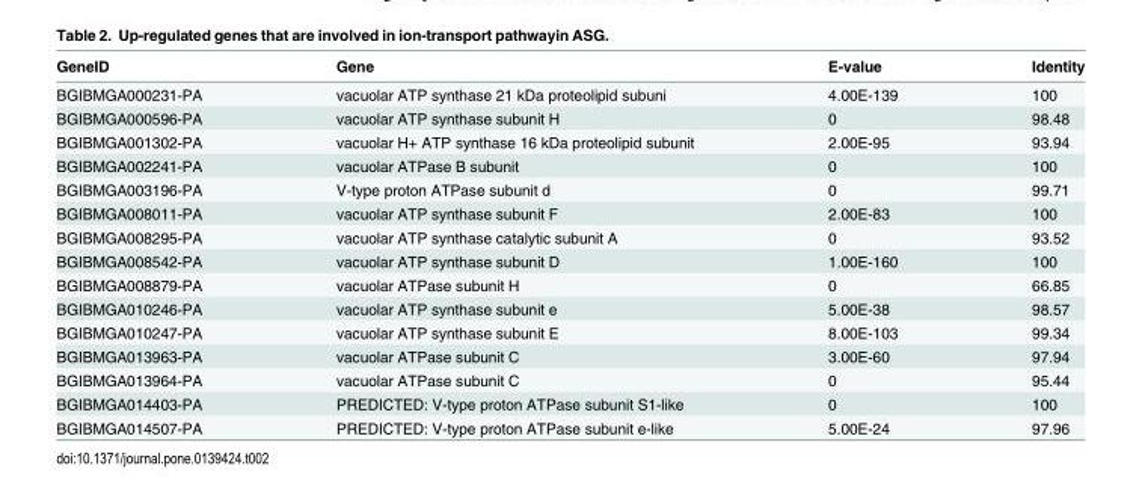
<table><thead><tr><td>GeneID</td><td>Gene</td><td>E-value</td><td>Identity</td></tr></thead><tbody><tr><td>BGIBMGA000231-PA</td><td>vacuolar ATP synthase 21 kDa proteolipid subuni</td><td>4.00E-139</td><td>100</td></tr><tr><td>BGIBMGA000596-PA</td><td>vacuolar ATP synthase subunit H</td><td>0</td><td>98.48</td></tr><tr><td>BGIBMGA001302-PA</td><td>vacuolar H+ ATP synthase 16 kDa proteolipid subunit</td><td>2.00E-95</td><td>93.94</td></tr><tr><td>BGIBMGA002241-PA</td><td>vacuolar ATPase B subunit</td><td>0</td><td>100</td></tr><tr><td>BGIBMGA003196-PA</td><td>V-type proton ATPase subunit d</td><td>0</td><td>99.71</td></tr><tr><td>BGIBMGA008011-PA</td><td>vacuolar ATP synthase subunit F</td><td>2.00E-83</td><td>100</td></tr><tr><td>BGIBMGA008295-PA</td><td>vacuolar ATP synthase catalytic subunit A</td><td>0</td><td>93.52</td></tr><tr><td>BGIBMGA008542-PA</td><td>vacuolar ATP synthase subunit D</td><td>1.00E-160</td><td>100</td></tr><tr><td>BGIBMGA008879-PA</td><td>vacuolar ATPase subunit H</td><td>0</td><td>66.85</td></tr><tr><td>BGIBMGA010246-PA</td><td>vacuolar ATP synthase subunit e</td><td>5.00E-38</td><td>98.57</td></tr><tr><td>BGIBMGA010247-PA</td><td>vacuolar ATP synthase subunit E</td><td>8.00E-103</td><td>99.34</td></tr><tr><td>BGIBMGA013963-PA</td><td>vacuolar ATPase subunit C</td><td>3.00E-60</td><td>97.94</td></tr><tr><td>BGIBMGA013964-PA</td><td>vacuolar ATPase subunit C</td><td>0</td><td>95.44</td></tr><tr><td>BGIBMGA014403-PA</td><td>PREDICTED: V-type proton ATPase subunit S1-like</td><td>0</td><td>100</td></tr><tr><td>BGIBMGA014507-PA</td><td>PREDICTED: V-type proton ATPase subunit e-like</td><td>5.00E-24</td><td>97.96</td></tr></tbody></table>